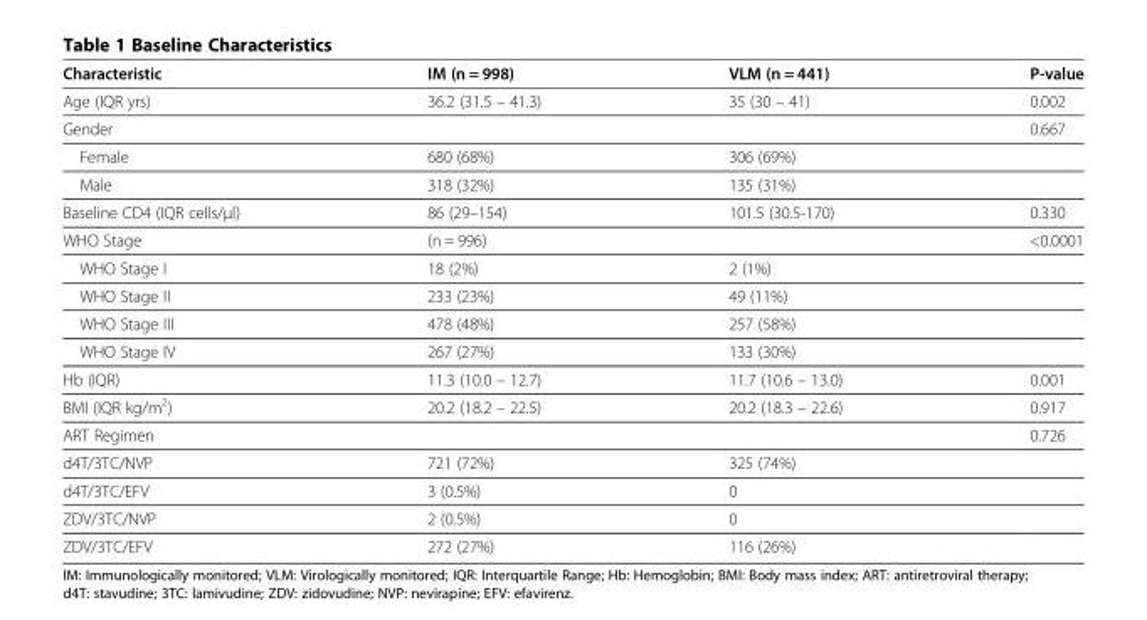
<table><thead><tr><td>Characteristic</td><td>IM (n = 998)</td><td>VLM (n = 441)</td><td>P-value</td></tr></thead><tbody><tr><td>Age (IQR yrs)</td><td>36.2 (31.5 – 41.3)</td><td>35 (30 – 41)</td><td>0.002</td></tr><tr><td>Gender</td><td></td><td></td><td>0.667</td></tr><tr><td>Female</td><td>680 (68%)</td><td>306 (69%)</td><td></td></tr><tr><td>Male</td><td>318 (32%)</td><td>135 (31%)</td><td></td></tr><tr><td>Baseline CD4 (IQR cells/μl)</td><td>86 (29–154)</td><td>101.5 (30.5-170)</td><td>0.330</td></tr><tr><td>WHO Stage</td><td>(n = 996)</td><td></td><td>&lt;0.0001</td></tr><tr><td>WHO Stage I</td><td>18 (2%)</td><td>2 (1%)</td><td></td></tr><tr><td>WHO Stage II</td><td>233 (23%)</td><td>49 (11%)</td><td></td></tr><tr><td>WHO Stage III</td><td>478 (48%)</td><td>257 (58%)</td><td></td></tr><tr><td>WHO Stage IV</td><td>267 (27%)</td><td>133 (30%)</td><td></td></tr><tr><td>Hb (IQR)</td><td>11.3 (10.0 – 12.7)</td><td>11.7 (10.6 – 13.0)</td><td>0.001</td></tr><tr><td>BMI (IQR kg/m<sup>2</sup>)</td><td>20.2 (18.2 – 22.5)</td><td>20.2 (18.3 – 22.6)</td><td>0.917</td></tr><tr><td>ART Regimen</td><td></td><td></td><td>0.726</td></tr><tr><td>d4T/3TC/NVP</td><td>721 (72%)</td><td>325 (74%)</td><td></td></tr><tr><td>d4T/3TC/EFV</td><td>3 (0.5%)</td><td>0</td><td></td></tr><tr><td>ZDV/3TC/NVP</td><td>2 (0.5%)</td><td>0</td><td></td></tr><tr><td>ZDV/3TC/EFV</td><td>272 (27%)</td><td>116 (26%)</td><td></td></tr></tbody></table>